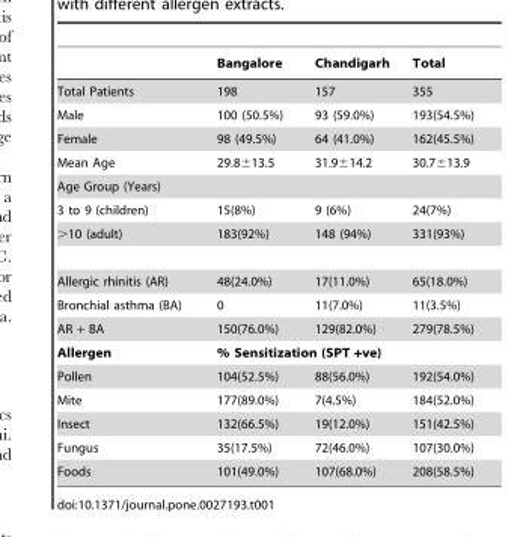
<table><thead><tr><td></td><td>Bangalore</td><td>Chandigarh</td><td>Total</td></tr></thead><tbody><tr><td>Total Patients</td><td>198</td><td>157</td><td>355</td></tr><tr><td>Male</td><td>100 (50.5%)</td><td>93 (59.0%)</td><td>193(54.5%)</td></tr><tr><td>Female</td><td>98 (49.5%)</td><td>64 (41.0%)</td><td>162(45.5%)</td></tr><tr><td>Mean Age</td><td>29.8±13.5</td><td>31.9±14.2</td><td>30.7±13.9</td></tr><tr><td colspan="4">Age Group (Years)</td></tr><tr><td>3 to 9 (children)</td><td>15(8%)</td><td>9 (6%)</td><td>24(7%)</td></tr><tr><td>&gt;10 (adult)</td><td>183(92%)</td><td>148 (94%)</td><td>331(93%)</td></tr><tr><td>Allergic rhinitis (AR)</td><td>48(24.0%)</td><td>17(11.0%)</td><td>65(18.0%)</td></tr><tr><td>Bronchial asthma (BA)</td><td>0</td><td>11(7.0%)</td><td>11(3.5%)</td></tr><tr><td>AR + BA</td><td>150(76.0%)</td><td>129(82.0%)</td><td>279(78.5%)</td></tr><tr><td>Allergen</td><td colspan="3">% Sensitization (SPT +ve)</td></tr><tr><td>Pollen</td><td>104(52.5%)</td><td>88(56.0%)</td><td>192(54.0%)</td></tr><tr><td>Mite</td><td>177(89.0%)</td><td>7(4.5%)</td><td>184(52.0%)</td></tr><tr><td>Insect</td><td>132(66.5%)</td><td>19(12.0%)</td><td>151(42.5%)</td></tr><tr><td>Fungus</td><td>35(17.5%)</td><td>72(46.0%)</td><td>107(30.0%)</td></tr><tr><td>Foods</td><td>101(49.0%)</td><td>107(68.0%)</td><td>208(58.5%)</td></tr></tbody></table>